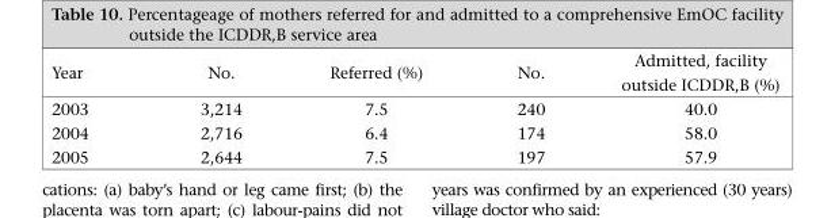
<table><thead><tr><td>Year</td><td>No.</td><td>Referred (%)</td><td>No.</td><td>Admitted, facility outside ICDDR,B (%)</td></tr></thead><tbody><tr><td>2003</td><td>3,214</td><td>7.5</td><td>240</td><td>40.0</td></tr><tr><td>2004</td><td>2,716</td><td>6.4</td><td>174</td><td>58.0</td></tr><tr><td>2005</td><td>2,644</td><td>7.5</td><td>197</td><td>57.9</td></tr></tbody></table>